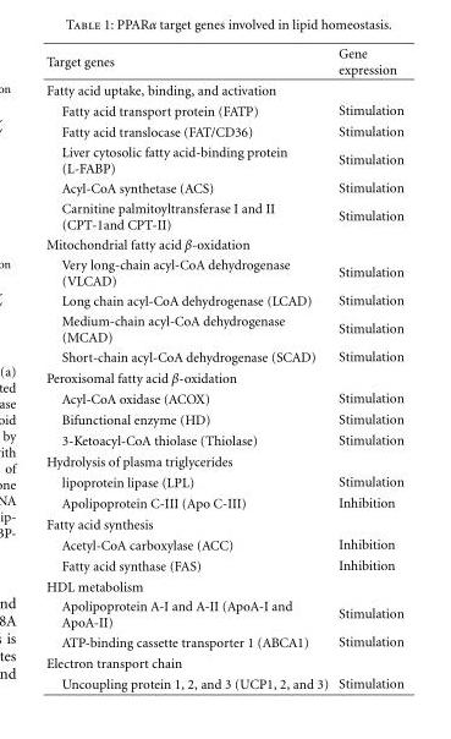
<table><thead><tr><td>Target genes</td><td>Gene expression</td></tr></thead><tbody><tr><td colspan="2">Fatty acid uptake, binding, and activation</td></tr><tr><td>Fatty acid transport protein (FATP)</td><td>Stimulation</td></tr><tr><td>Fatty acid translocase (FAT/CD36)</td><td>Stimulation</td></tr><tr><td>Liver cytosolic fatty acid-binding protein (L-FABP)</td><td>Stimulation</td></tr><tr><td>Acyl-CoA synthetase (ACS)</td><td>Stimulation</td></tr><tr><td>Carnitine palmitoyltransferase I and II (CPT-1and CPT-II)</td><td>Stimulation</td></tr><tr><td colspan="2">Mitochondrial fatty acid β-oxidation</td></tr><tr><td>Very long-chain acyl-CoA dehydrogenase (VLCAD)</td><td>Stimulation</td></tr><tr><td>Long chain acyl-CoA dehydrogenase (LCAD)</td><td>Stimulation</td></tr><tr><td>Medium-chain acyl-CoA dehydrogenase (MCAD)</td><td>Stimulation</td></tr><tr><td>Short-chain acyl-CoA dehydrogenase (SCAD)</td><td>Stimulation</td></tr><tr><td colspan="2">Peroxisomal fatty acid β-oxidation</td></tr><tr><td>Acyl-CoA oxidase (ACOX)</td><td>Stimulation</td></tr><tr><td>Bifunctional enzyme (HD)</td><td>Stimulation</td></tr><tr><td>3-Ketoacyl-CoA thiolase (Thiolase)</td><td>Stimulation</td></tr><tr><td colspan="2">Hydrolysis of plasma triglycerides</td></tr><tr><td>lipoprotein lipase (LPL)</td><td>Stimulation</td></tr><tr><td>Apolipoprotein C-III (Apo C-III)</td><td>Inhibition</td></tr><tr><td colspan="2">Fatty acid synthesis</td></tr><tr><td>Acetyl-CoA carboxylase (ACC)</td><td>Inhibition</td></tr><tr><td>Fatty acid synthase (FAS)</td><td>Inhibition</td></tr><tr><td colspan="2">HDL metabolism</td></tr><tr><td>Apolipoprotein A-I and A-II (ApoA-I and ApoA-II)</td><td>Stimulation</td></tr><tr><td>ATP-binding cassette transporter 1 (ABCA1)</td><td>Stimulation</td></tr><tr><td colspan="2">Electron transport chain</td></tr><tr><td>Uncoupling protein 1, 2, and 3 (UCP1, 2, and 3)</td><td>Stimulation</td></tr></tbody></table>